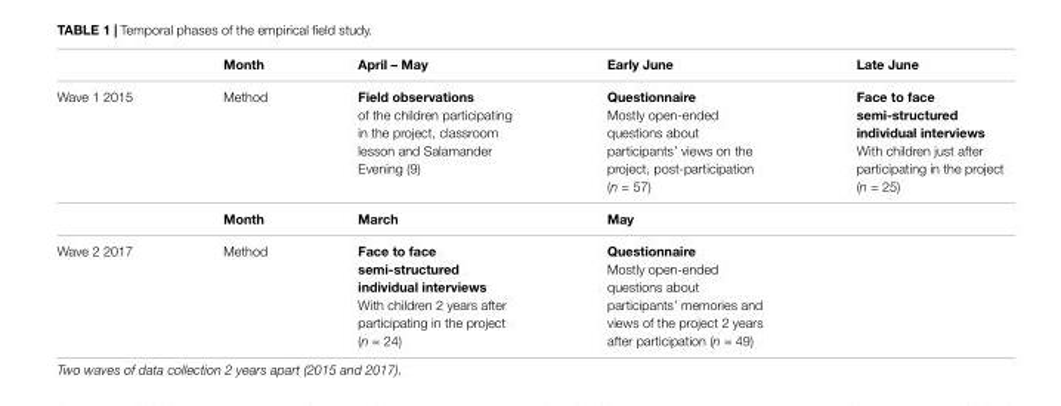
<table><thead><tr><td></td><td>Month</td><td>April – May</td><td>Early June</td><td>Late June</td></tr></thead><tbody><tr><td rowspan="2">Wave 1 2015</td><td>Method</td><td>Field observations of the children participating in the project, classroom lesson and Salamander Evening (9)</td><td>Questionnaire Mostly open-ended questions about participants’ views on the project, post-participation (n = 57)</td><td>Face to face semi-structured individual interviews With children just after participating in the project (n = 25)</td></tr><tr><td>Month</td><td>March</td><td>May</td><td></td></tr><tr><td>Wave 2 2017</td><td>Method</td><td>Face to face semi-structured individual interviews With children 2 years after participating in the project (n = 24)</td><td>Questionnaire Mostly open-ended questions about participants’ memories and views of the project 2 years after participation (n = 49)</td><td></td></tr></tbody></table>